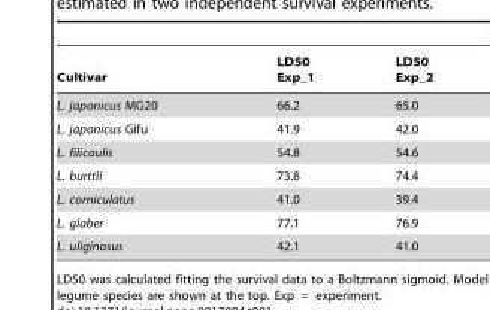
<table><thead><tr><td>Cultivar</td><td>LD50 Exp_1</td><td>LD50 Exp_2</td></tr></thead><tbody><tr><td>L. japonicus MG20</td><td>66.2</td><td>65.0</td></tr><tr><td>L. japonicus Gifu</td><td>41.9</td><td>42.0</td></tr><tr><td>L. filicaulis</td><td>54.8</td><td>54.6</td></tr><tr><td>L. burttii</td><td>73.8</td><td>74.4</td></tr><tr><td>L. corniculatus</td><td>41.0</td><td>39.4</td></tr><tr><td>L. glaber</td><td>77.1</td><td>76.9</td></tr><tr><td>L. uliginosus</td><td>42.1</td><td>41.0</td></tr></tbody></table>